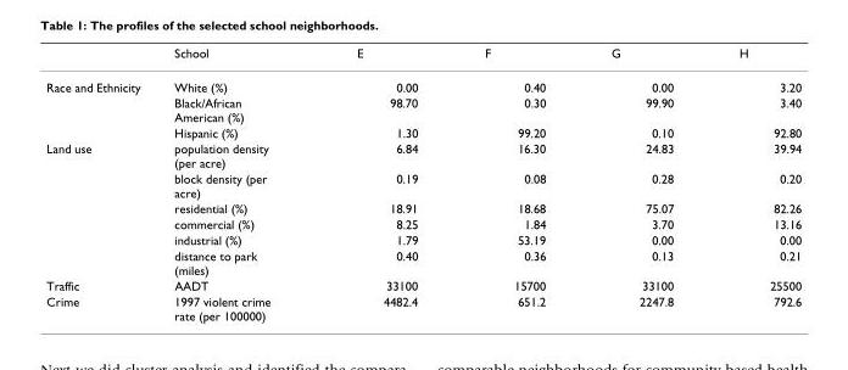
<table><thead><tr><td></td><td>School</td><td>E</td><td>F</td><td>G</td><td>H</td></tr></thead><tbody><tr><td rowspan="3">Race and Ethnicity</td><td>White (%)</td><td>0.00</td><td>0.40</td><td>0.00</td><td>3.20</td></tr><tr><td>Black/African American (%)</td><td>98.70</td><td>0.30</td><td>99.90</td><td>3.40</td></tr><tr><td>Hispanic (%)</td><td>1.30</td><td>99.20</td><td>0.10</td><td>92.80</td></tr><tr><td rowspan="6">Land use</td><td>population density (per acre)</td><td>6.84</td><td>16.30</td><td>24.83</td><td>39.94</td></tr><tr><td>block density (per acre)</td><td>0.19</td><td>0.08</td><td>0.28</td><td>0.20</td></tr><tr><td>residential (%)</td><td>18.91</td><td>18.68</td><td>75.07</td><td>82.26</td></tr><tr><td>commercial (%)</td><td>8.25</td><td>1.84</td><td>3.70</td><td>13.16</td></tr><tr><td>industrial (%)</td><td>1.79</td><td>53.19</td><td>0.00</td><td>0.00</td></tr><tr><td>distance to park (miles)</td><td>0.40</td><td>0.36</td><td>0.13</td><td>0.21</td></tr><tr><td>Traffic</td><td>AADT</td><td>33100</td><td>15700</td><td>33100</td><td>25500</td></tr><tr><td>Crime</td><td>1997 violent crime rate (per 100000)</td><td>4482.4</td><td>651.2</td><td>2247.8</td><td>792.6</td></tr></tbody></table>